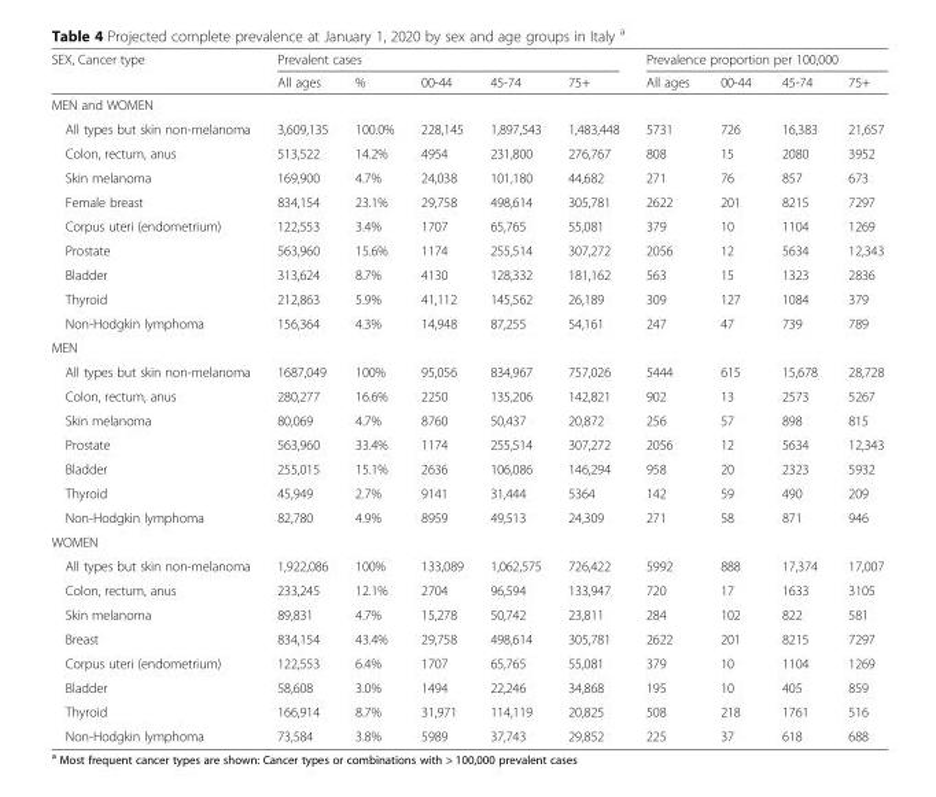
<table><thead><tr><td rowspan="2">SEX, Cancer type</td><td colspan="5">Prevalent cases</td><td colspan="4">Prevalence proportion per 100,000</td></tr><tr><td>All ages</td><td>%</td><td>00-44</td><td>45-74</td><td>75+</td><td>All ages</td><td>00-44</td><td>45-74</td><td>75+</td></tr></thead><tbody><tr><td colspan="10">MEN and WOMEN</td></tr><tr><td>All types but skin non-melanoma</td><td>3,609,135</td><td>100.0%</td><td>228,145</td><td>1,897,543</td><td>1,483,448</td><td>5731</td><td>726</td><td>16,383</td><td>21,657</td></tr><tr><td>Colon, rectum, anus</td><td>513,522</td><td>14.2%</td><td>4954</td><td>231,800</td><td>276,767</td><td>808</td><td>15</td><td>2080</td><td>3952</td></tr><tr><td>Skin melanoma</td><td>169,900</td><td>4.7%</td><td>24,038</td><td>101,180</td><td>44,682</td><td>271</td><td>76</td><td>857</td><td>673</td></tr><tr><td>Female breast</td><td>834,154</td><td>23.1%</td><td>29,758</td><td>498,614</td><td>305,781</td><td>2622</td><td>201</td><td>8215</td><td>7297</td></tr><tr><td>Corpus uteri (endometrium)</td><td>122,553</td><td>3.4%</td><td>1707</td><td>65,765</td><td>55,081</td><td>379</td><td>10</td><td>1104</td><td>1269</td></tr><tr><td>Prostate</td><td>563,960</td><td>15.6%</td><td>1174</td><td>255,514</td><td>307,272</td><td>2056</td><td>12</td><td>5634</td><td>12,343</td></tr><tr><td>Bladder</td><td>313,624</td><td>8.7%</td><td>4130</td><td>128,332</td><td>181,162</td><td>563</td><td>15</td><td>1323</td><td>2836</td></tr><tr><td>Thyroid</td><td>212,863</td><td>5.9%</td><td>41,112</td><td>145,562</td><td>26,189</td><td>309</td><td>127</td><td>1084</td><td>379</td></tr><tr><td>Non-Hodgkin lymphoma</td><td>156,364</td><td>4.3%</td><td>14,948</td><td>87,255</td><td>54,161</td><td>247</td><td>47</td><td>739</td><td>789</td></tr><tr><td colspan="10">MEN</td></tr><tr><td>All types but skin non-melanoma</td><td>1687,049</td><td>100%</td><td>95,056</td><td>834,967</td><td>757,026</td><td>5444</td><td>615</td><td>15,678</td><td>28,728</td></tr><tr><td>Colon, rectum, anus</td><td>280,277</td><td>16.6%</td><td>2250</td><td>135,206</td><td>142,821</td><td>902</td><td>13</td><td>2573</td><td>5267</td></tr><tr><td>Skin melanoma</td><td>80,069</td><td>4.7%</td><td>8760</td><td>50,437</td><td>20,872</td><td>256</td><td>57</td><td>898</td><td>815</td></tr><tr><td>Prostate</td><td>563,960</td><td>33.4%</td><td>1174</td><td>255,514</td><td>307,272</td><td>2056</td><td>12</td><td>5634</td><td>12,343</td></tr><tr><td>Bladder</td><td>255,015</td><td>15.1%</td><td>2636</td><td>106,086</td><td>146,294</td><td>958</td><td>20</td><td>2323</td><td>5932</td></tr><tr><td>Thyroid</td><td>45,949</td><td>2.7%</td><td>9141</td><td>31,444</td><td>5364</td><td>142</td><td>59</td><td>490</td><td>209</td></tr><tr><td>Non-Hodgkin lymphoma</td><td>82,780</td><td>4.9%</td><td>8959</td><td>49,513</td><td>24,309</td><td>271</td><td>58</td><td>871</td><td>946</td></tr><tr><td colspan="10">WOMEN</td></tr><tr><td>All types but skin non-melanoma</td><td>1,922,086</td><td>100%</td><td>133,089</td><td>1,062,575</td><td>726,422</td><td>5992</td><td>888</td><td>17,374</td><td>17,007</td></tr><tr><td>Colon, rectum, anus</td><td>233,245</td><td>12.1%</td><td>2704</td><td>96,594</td><td>133,947</td><td>720</td><td>17</td><td>1633</td><td>3105</td></tr><tr><td>Skin melanoma</td><td>89,831</td><td>4.7%</td><td>15,278</td><td>50,742</td><td>23,811</td><td>284</td><td>102</td><td>822</td><td>581</td></tr><tr><td>Breast</td><td>834,154</td><td>43.4%</td><td>29,758</td><td>498,614</td><td>305,781</td><td>2622</td><td>201</td><td>8215</td><td>7297</td></tr><tr><td>Corpus uteri (endometrium)</td><td>122,553</td><td>6.4%</td><td>1707</td><td>65,765</td><td>55,081</td><td>379</td><td>10</td><td>1104</td><td>1269</td></tr><tr><td>Bladder</td><td>58,608</td><td>3.0%</td><td>1494</td><td>22,246</td><td>34,868</td><td>195</td><td>10</td><td>405</td><td>859</td></tr><tr><td>Thyroid</td><td>166,914</td><td>8.7%</td><td>31,971</td><td>114,119</td><td>20,825</td><td>508</td><td>218</td><td>1761</td><td>516</td></tr><tr><td>Non-Hodgkin lymphoma</td><td>73,584</td><td>3.8%</td><td>5989</td><td>37,743</td><td>29,852</td><td>225</td><td>37</td><td>618</td><td>688</td></tr></tbody></table>